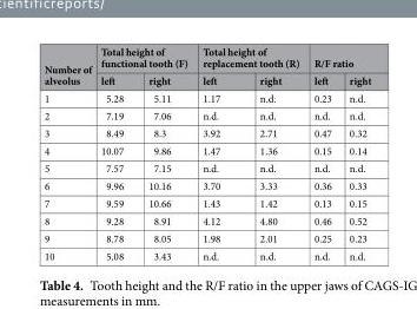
<table><thead><tr><td rowspan="2">Number of alveolus</td><td colspan="2">Total height of functional tooth (F)</td><td colspan="2">Total height of replacement tooth (R)</td><td colspan="2">R/F ratio</td></tr><tr><td>left</td><td>right</td><td>left</td><td>right</td><td>left</td><td>right</td></tr></thead><tbody><tr><td>1</td><td>5.28</td><td>5.11</td><td>1.17</td><td>n.d.</td><td>0.23</td><td>n.d.</td></tr><tr><td>2</td><td>7.19</td><td>7.06</td><td>n.d.</td><td>n.d.</td><td>n.d.</td><td>n.d.</td></tr><tr><td>3</td><td>8.49</td><td>8.3</td><td>3.92</td><td>2.71</td><td>0.47</td><td>0.32</td></tr><tr><td>4</td><td>10.07</td><td>9.86</td><td>1.47</td><td>1.36</td><td>0.15</td><td>0.14</td></tr><tr><td>5</td><td>7.57</td><td>7.15</td><td>n.d.</td><td>n.d.</td><td>n.d.</td><td>n.d.</td></tr><tr><td>6</td><td>9.96</td><td>10.16</td><td>3.70</td><td>3.33</td><td>0.36</td><td>0.33</td></tr><tr><td>7</td><td>9.59</td><td>10.66</td><td>1.43</td><td>1.42</td><td>0.13</td><td>0.15</td></tr><tr><td>8</td><td>9.28</td><td>8.91</td><td>4.12</td><td>4.80</td><td>0.46</td><td>0.52</td></tr><tr><td>9</td><td>8.78</td><td>8.05</td><td>1.98</td><td>2.01</td><td>0.25</td><td>0.23</td></tr><tr><td>10</td><td>5.08</td><td>3.43</td><td>n.d.</td><td>n.d.</td><td>n.d.</td><td>n.d.</td></tr></tbody></table>